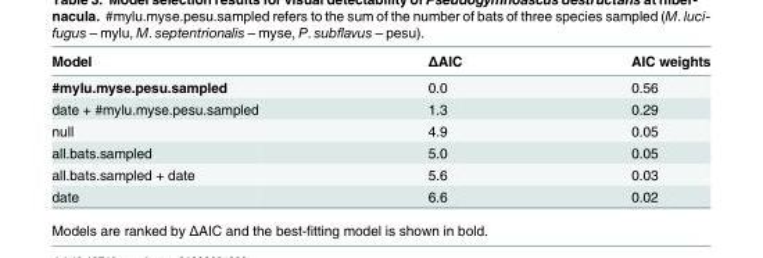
<table><thead><tr><td>Model</td><td>ΔAIC</td><td>AIC weights</td></tr></thead><tbody><tr><td>#mylu.myse.pesu.sampled</td><td>0.0</td><td>0.56</td></tr><tr><td>date + #mylu.myse.pesu.sampled</td><td>1.3</td><td>0.29</td></tr><tr><td>null</td><td>4.9</td><td>0.05</td></tr><tr><td>all.bats.sampled</td><td>5.0</td><td>0.05</td></tr><tr><td>all.bats.sampled + date</td><td>5.6</td><td>0.03</td></tr><tr><td>date</td><td>6.6</td><td>0.02</td></tr></tbody></table>